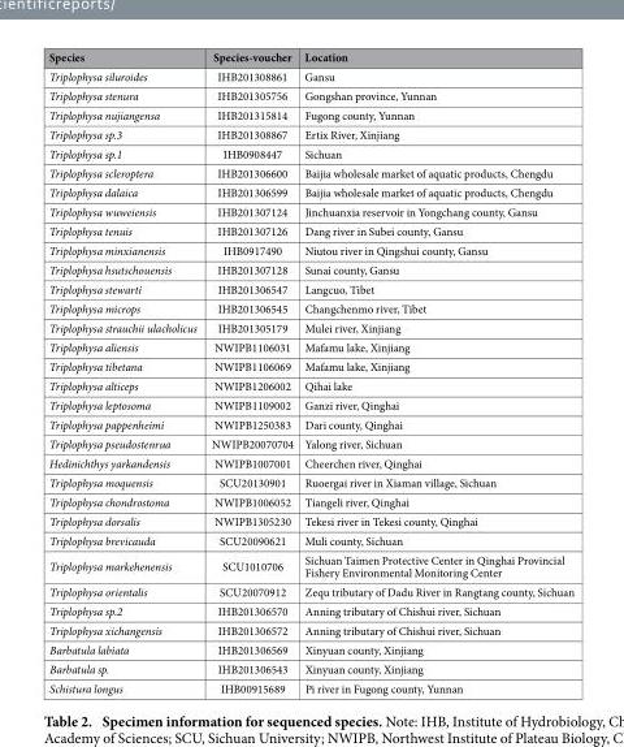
<table><thead><tr><td>Species</td><td>Species-voucher</td><td>Location</td></tr></thead><tbody><tr><td>Triplophysa siluroides</td><td>IHB201308861</td><td>Gansu</td></tr><tr><td>Triplophysa stenura</td><td>IHB201305756</td><td>Gongshan province, Yunnan</td></tr><tr><td>Triplophysa nujiangensa</td><td>IHB201315814</td><td>Fugong county, Yunnan</td></tr><tr><td>Triplophysa sp.3</td><td>IHB201308867</td><td>Ertix River, Xinjiang</td></tr><tr><td>Triplophysa sp.1</td><td>IHB0908447</td><td>Sichuan</td></tr><tr><td>Triplophysa scleroptera</td><td>IHB201306600</td><td>Baijia wholesale market of aquatic products, Chengdu</td></tr><tr><td>Triplophysa dalaica</td><td>IHB201306599</td><td>Baijia wholesale market of aquatic products, Chengdu</td></tr><tr><td>Triplophysa wuweiensis</td><td>IHB201307124</td><td>Jinchuanxia reservoir in Yongchang county, Gansu</td></tr><tr><td>Triplophysa tenuis</td><td>IHB201307126</td><td>Dang river in Subei county, Gansu</td></tr><tr><td>Triplophysa minxianensis</td><td>IHB0917490</td><td>Niutou river in Qingshui county, Gansu</td></tr><tr><td>Triplophysa hsutschouensis</td><td>IHB201307128</td><td>Sunai county, Gansu</td></tr><tr><td>Triplophysa stewarti</td><td>IHB201306547</td><td>Langcuo, Tibet</td></tr><tr><td>Triplophysa microps</td><td>IHB201306545</td><td>Changchenmo river, Tibet</td></tr><tr><td>Triplophysa strauchii ulacholicus</td><td>IHB201305179</td><td>Mulei river, Xinjiang</td></tr><tr><td>Triplophysa aliensis</td><td>NWIPB1106031</td><td>Mafamu lake, Xinjiang</td></tr><tr><td>Triplophysa tibetana</td><td>NWIPB1106069</td><td>Mafamu lake, Xinjiang</td></tr><tr><td>Triplophysa alticeps</td><td>NWIPB1206002</td><td>Qihai lake</td></tr><tr><td>Triplophysa leptosoma</td><td>NWIPB1109002</td><td>Ganzi river, Qinghai</td></tr><tr><td>Triplophysa pappenheimi</td><td>NWIPB1250383</td><td>Dari county, Qinghai</td></tr><tr><td>Triplophysa pseudostenrua</td><td>NWIPB20070704</td><td>Yalong river, Sichuan</td></tr><tr><td>Hedinichthys yarkandensis</td><td>NWIPB1007001</td><td>Cheerchen river, Qinghai</td></tr><tr><td>Triplophysa moquensis</td><td>SCU20130901</td><td>Ruoergai river in Xiaman village, Sichuan</td></tr><tr><td>Triplophysa chondrostoma</td><td>NWIPB1006052</td><td>Tiangeli river, Qinghai</td></tr><tr><td>Triplophysa dorsalis</td><td>NWIPB1305230</td><td>Tekesi river in Tekesi county, Qinghai</td></tr><tr><td>Triplophysa brevicauda</td><td>SCU20090621</td><td>Muli county, Sichuan</td></tr><tr><td>Triplophysa markehenensis</td><td>SCU1010706</td><td>Sichuan Taimen Protective Center in Qinghai Provincial Fishery Environmental Monitoring Center</td></tr><tr><td>Triplophysa orientalis</td><td>SCU20070912</td><td>Zequ tributary of Dadu River in Rangtang county, Sichuan</td></tr><tr><td>Triplophysa sp.2</td><td>IHB201306570</td><td>Anning tributary of Chishui river, Sichuan</td></tr><tr><td>Triplophysa xichangensis</td><td>IHB201306572</td><td>Anning tributary of Chishui river, Sichuan</td></tr><tr><td>Barbatula labiata</td><td>IHB201306569</td><td>Xinyuan county, Xinjiang</td></tr><tr><td>Barbatula sp.</td><td>IHB201306543</td><td>Xinyuan county, Xinjiang</td></tr><tr><td>Schistura longus</td><td>IHB00915689</td><td>Pi river in Fugong county, Yunnan</td></tr></tbody></table>